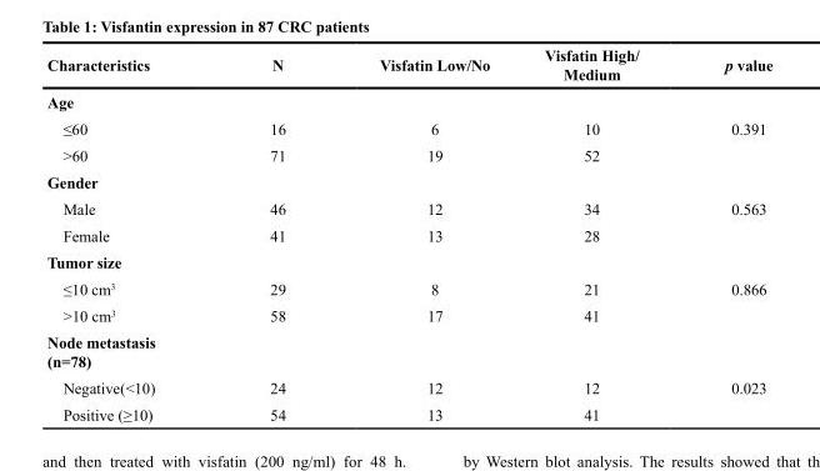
<table><thead><tr><td>Characteristics</td><td>N</td><td>Visfatin Low/No</td><td>Visfatin High/ Medium</td><td>p value</td></tr></thead><tbody><tr><td colspan="5">Age</td></tr><tr><td>≤60</td><td>16</td><td>6</td><td>10</td><td>0.391</td></tr><tr><td>&gt;60</td><td>71</td><td>19</td><td>52</td><td></td></tr><tr><td colspan="5">Gender</td></tr><tr><td>Male</td><td>46</td><td>12</td><td>34</td><td>0.563</td></tr><tr><td>Female</td><td>41</td><td>13</td><td>28</td><td></td></tr><tr><td colspan="5">Tumor size</td></tr><tr><td>≤10 cm<sup>3</sup></td><td>29</td><td>8</td><td>21</td><td>0.866</td></tr><tr><td>&gt;10 cm<sup>3</sup></td><td>58</td><td>17</td><td>41</td><td></td></tr><tr><td colspan="5">Node metastasis (n=78)</td></tr><tr><td>Negative(&lt;10)</td><td>24</td><td>12</td><td>12</td><td>0.023</td></tr><tr><td>Positive (≥10)</td><td>54</td><td>13</td><td>41</td><td></td></tr></tbody></table>